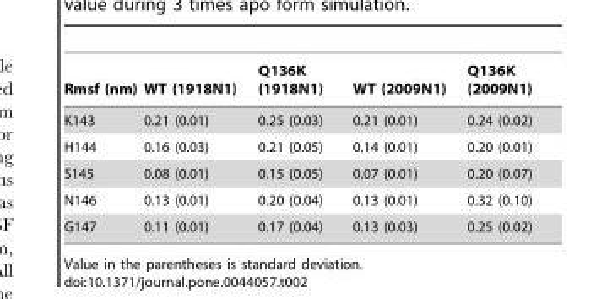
<table><thead><tr><td>Rmsf (nm)</td><td>WT (1918N1)</td><td>Q136K (1918N1)</td><td>WT (2009N1)</td><td>Q136K (2009N1)</td></tr></thead><tbody><tr><td>K143</td><td>0.21 (0.01)</td><td>0.25 (0.03)</td><td>0.21 (0.01)</td><td>0.24 (0.02)</td></tr><tr><td>H144</td><td>0.16 (0.03)</td><td>0.21 (0.05)</td><td>0.14 (0.01)</td><td>0.20 (0.01)</td></tr><tr><td>S145</td><td>0.08 (0.01)</td><td>0.15 (0.05)</td><td>0.07 (0.01)</td><td>0.20 (0.07)</td></tr><tr><td>N146</td><td>0.13 (0.01)</td><td>0.20 (0.04)</td><td>0.13 (0.01)</td><td>0.32 (0.10)</td></tr><tr><td>G147</td><td>0.11 (0.01)</td><td>0.17 (0.04)</td><td>0.13 (0.03)</td><td>0.25 (0.02)</td></tr></tbody></table>